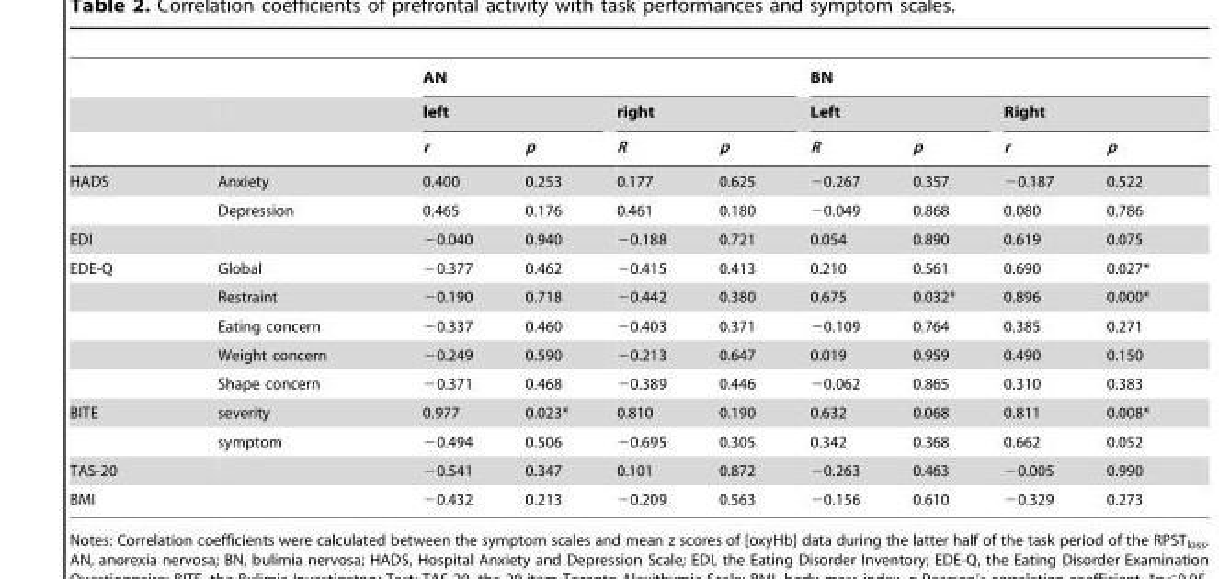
<table><thead><tr><td rowspan="3"></td><td rowspan="3"></td><td colspan="4">AN</td><td colspan="4">BN</td></tr><tr><td colspan="2">left</td><td colspan="2">right</td><td colspan="2">Left</td><td colspan="2">Right</td></tr><tr><td>r</td><td>p</td><td>R</td><td>p</td><td>R</td><td>p</td><td>r</td><td>p</td></tr></thead><tbody><tr><td rowspan="2">HADS</td><td>Anxiety</td><td>0.400</td><td>0.253</td><td>0.177</td><td>0.625</td><td>−0.267</td><td>0.357</td><td>−0.187</td><td>0.522</td></tr><tr><td>Depression</td><td>0.465</td><td>0.176</td><td>0.461</td><td>0.180</td><td>−0.049</td><td>0.868</td><td>0.080</td><td>0.786</td></tr><tr><td>EDI</td><td></td><td>−0.040</td><td>0.940</td><td>−0.188</td><td>0.721</td><td>0.054</td><td>0.890</td><td>0.619</td><td>0.075</td></tr><tr><td rowspan="5">EDE-Q</td><td>Global</td><td>−0.377</td><td>0.462</td><td>−0.415</td><td>0.413</td><td>0.210</td><td>0.561</td><td>0.690</td><td>0.027*</td></tr><tr><td>Restraint</td><td>−0.190</td><td>0.718</td><td>−0.442</td><td>0.380</td><td>0.675</td><td>0.032*</td><td>0.896</td><td>0.000*</td></tr><tr><td>Eating concern</td><td>−0.337</td><td>0.460</td><td>−0.403</td><td>0.371</td><td>−0.109</td><td>0.764</td><td>0.385</td><td>0.271</td></tr><tr><td>Weight concern</td><td>−0.249</td><td>0.590</td><td>−0.213</td><td>0.647</td><td>0.019</td><td>0.959</td><td>0.490</td><td>0.150</td></tr><tr><td>Shape concern</td><td>−0.371</td><td>0.468</td><td>−0.389</td><td>0.446</td><td>−0.062</td><td>0.865</td><td>0.310</td><td>0.383</td></tr><tr><td rowspan="2">BITE</td><td>severity</td><td>0.977</td><td>0.023*</td><td>0.810</td><td>0.190</td><td>0.632</td><td>0.068</td><td>0.811</td><td>0.008*</td></tr><tr><td>symptom</td><td>−0.494</td><td>0.506</td><td>−0.695</td><td>0.305</td><td>0.342</td><td>0.368</td><td>0.662</td><td>0.052</td></tr><tr><td>TAS-20</td><td></td><td>−0.541</td><td>0.347</td><td>0.101</td><td>0.872</td><td>−0.263</td><td>0.463</td><td>−0.005</td><td>0.990</td></tr><tr><td>BMI</td><td></td><td>−0.432</td><td>0.213</td><td>−0.209</td><td>0.563</td><td>−0.156</td><td>0.610</td><td>−0.329</td><td>0.273</td></tr></tbody></table>